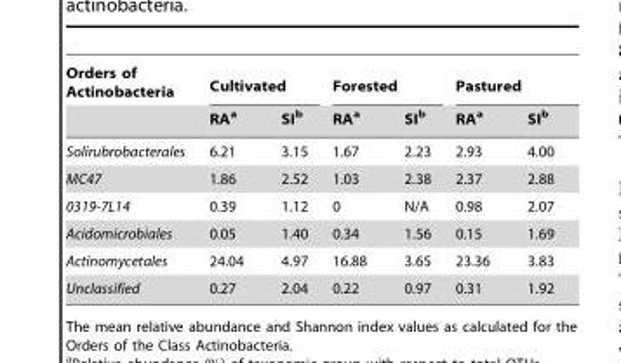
<table><thead><tr><td rowspan="2">Orders of Actinobacteria</td><td colspan="2">Cultivated</td><td colspan="2">Forested</td><td colspan="2">Pastured</td></tr><tr><td>RA<sup>a</sup></td><td>SI<sup>b</sup></td><td>RA<sup>a</sup></td><td>SI<sup>b</sup></td><td>RA<sup>a</sup></td><td>SI<sup>b</sup></td></tr></thead><tbody><tr><td>Solirubrobacterales</td><td>6.21</td><td>3.15</td><td>1.67</td><td>2.23</td><td>2.93</td><td>4.00</td></tr><tr><td>MC47</td><td>1.86</td><td>2.52</td><td>1.03</td><td>2.38</td><td>2.37</td><td>2.88</td></tr><tr><td>0319-7L14</td><td>0.39</td><td>1.12</td><td>0</td><td>N/A</td><td>0.98</td><td>2.07</td></tr><tr><td>Acidomicrobiales</td><td>0.05</td><td>1.40</td><td>0.34</td><td>1.56</td><td>0.15</td><td>1.69</td></tr><tr><td>Actinomycetales</td><td>24.04</td><td>4.97</td><td>16.88</td><td>3.65</td><td>23.36</td><td>3.83</td></tr><tr><td>Unclassified</td><td>0.27</td><td>2.04</td><td>0.22</td><td>0.97</td><td>0.31</td><td>1.92</td></tr></tbody></table>